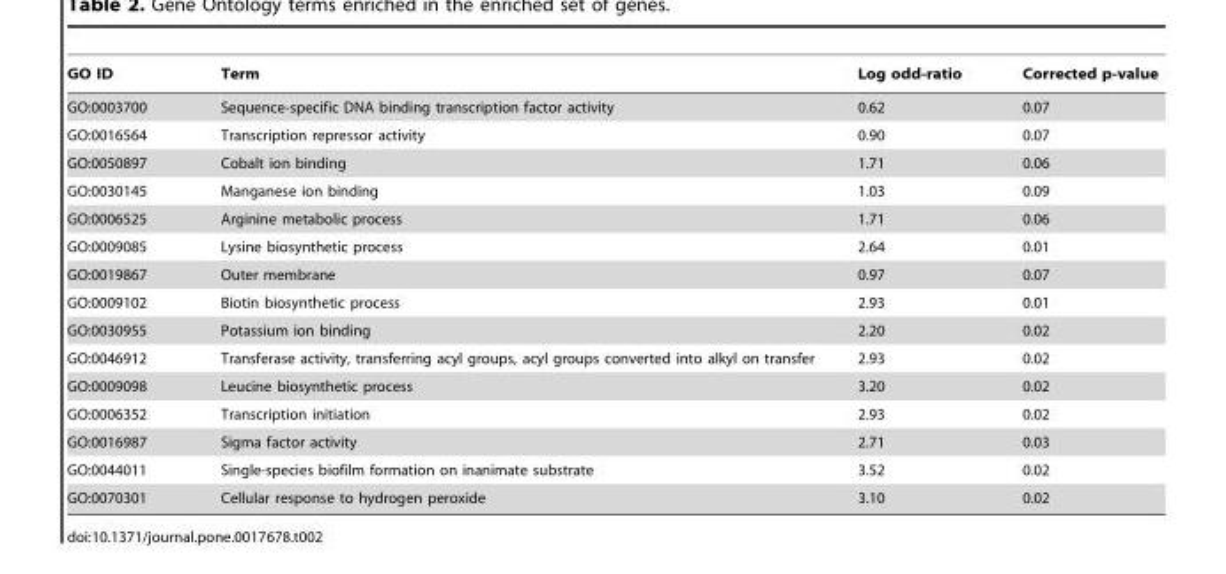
<table><thead><tr><td>GO ID</td><td>Term</td><td>Log odd-ratio</td><td>Corrected p-value</td></tr></thead><tbody><tr><td>GO:0003700</td><td>Sequence-specific DNA binding transcription factor activity</td><td>0.62</td><td>0.07</td></tr><tr><td>GO:0016564</td><td>Transcription repressor activity</td><td>0.90</td><td>0.07</td></tr><tr><td>GO:0050897</td><td>Cobalt ion binding</td><td>1.71</td><td>0.06</td></tr><tr><td>GO:0030145</td><td>Manganese ion binding</td><td>1.03</td><td>0.09</td></tr><tr><td>GO:0006525</td><td>Arginine metabolic process</td><td>1.71</td><td>0.06</td></tr><tr><td>GO:0009085</td><td>Lysine biosynthetic process</td><td>2.64</td><td>0.01</td></tr><tr><td>GO:0019867</td><td>Outer membrane</td><td>0.97</td><td>0.07</td></tr><tr><td>GO:0009102</td><td>Biotin biosynthetic process</td><td>2.93</td><td>0.01</td></tr><tr><td>GO:0030955</td><td>Potassium ion binding</td><td>2.20</td><td>0.02</td></tr><tr><td>GO:0046912</td><td>Transferase activity, transferring acyl groups, acyl groups converted into alkyl on transfer</td><td>2.93</td><td>0.02</td></tr><tr><td>GO:0009098</td><td>Leucine biosynthetic process</td><td>3.20</td><td>0.02</td></tr><tr><td>GO:0006352</td><td>Transcription initiation</td><td>2.93</td><td>0.02</td></tr><tr><td>GO:0016987</td><td>Sigma factor activity</td><td>2.71</td><td>0.03</td></tr><tr><td>GO:0044011</td><td>Single-species biofilm formation on inanimate substrate</td><td>3.52</td><td>0.02</td></tr><tr><td>GO:0070301</td><td>Cellular response to hydrogen peroxide</td><td>3.10</td><td>0.02</td></tr></tbody></table>